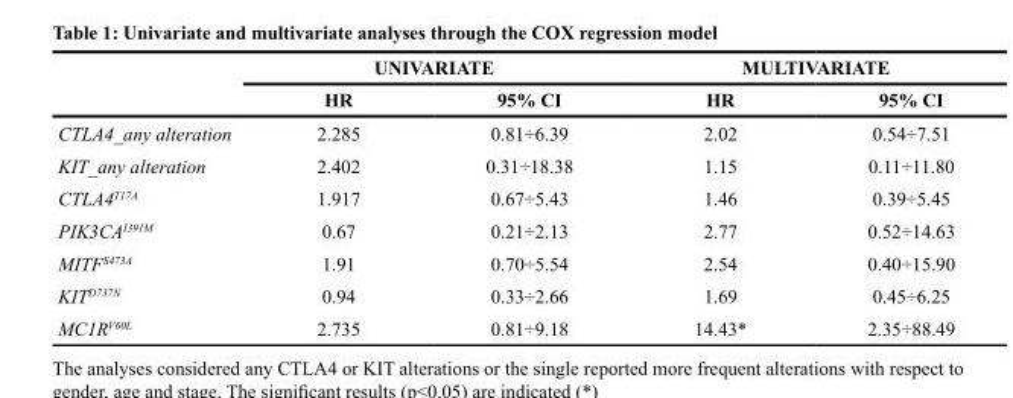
<table><thead><tr><td rowspan="2"></td><td colspan="2">UNIVARIATE</td><td colspan="2">MULTIVARIATE</td></tr><tr><td>HR</td><td>95% CI</td><td>HR</td><td>95% CI</td></tr></thead><tbody><tr><td>CTLA4_any alteration</td><td>2.285</td><td>0.81÷6.39</td><td>2.02</td><td>0.54÷7.51</td></tr><tr><td>KIT_any alteration</td><td>2.402</td><td>0.31÷18.38</td><td>1.15</td><td>0.11÷11.80</td></tr><tr><td>CTLA4<sup>T17A</sup></td><td>1.917</td><td>0.67÷5.43</td><td>1.46</td><td>0.39÷5.45</td></tr><tr><td>PIK3CA<sup>I391M</sup></td><td>0.67</td><td>0.21÷2.13</td><td>2.77</td><td>0.52÷14.63</td></tr><tr><td>MITF<sup>S473A</sup></td><td>1.91</td><td>0.70÷5.54</td><td>2.54</td><td>0.40÷15.90</td></tr><tr><td>KIT<sup>D737N</sup></td><td>0.94</td><td>0.33÷2.66</td><td>1.69</td><td>0.45÷6.25</td></tr><tr><td>MC1R<sup>V60L</sup></td><td>2.735</td><td>0.81÷9.18</td><td>14.43*</td><td>2.35÷88.49</td></tr></tbody></table>